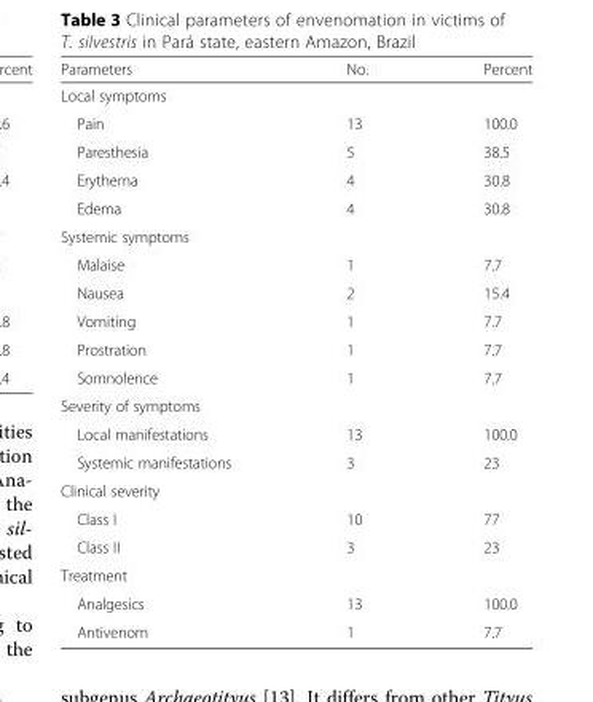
<table><thead><tr><td>Parameters</td><td>No.</td><td>Percent</td></tr></thead><tbody><tr><td colspan="3">Local symptoms</td></tr><tr><td>Pain</td><td>13</td><td>100.0</td></tr><tr><td>Paresthesia</td><td>5</td><td>38.5</td></tr><tr><td>Erythema</td><td>4</td><td>30.8</td></tr><tr><td>Edema</td><td>4</td><td>30.8</td></tr><tr><td colspan="3">Systemic symptoms</td></tr><tr><td>Malaise</td><td>1</td><td>7.7</td></tr><tr><td>Nausea</td><td>2</td><td>15.4</td></tr><tr><td>Vomiting</td><td>1</td><td>7.7</td></tr><tr><td>Prostration</td><td>1</td><td>7.7</td></tr><tr><td>Somnolence</td><td>1</td><td>7.7</td></tr><tr><td colspan="3">Severity of symptoms</td></tr><tr><td>Local manifestations</td><td>13</td><td>100.0</td></tr><tr><td>Systemic manifestations</td><td>3</td><td>23</td></tr><tr><td colspan="3">Clinical severity</td></tr><tr><td>Class I</td><td>10</td><td>77</td></tr><tr><td>Class II</td><td>3</td><td>23</td></tr><tr><td colspan="3">Treatment</td></tr><tr><td>Analgesics</td><td>13</td><td>100.0</td></tr><tr><td>Antivenom</td><td>1</td><td>7.7</td></tr></tbody></table>